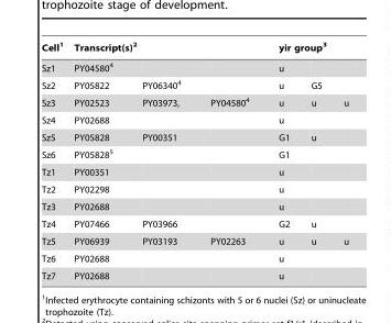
<table><thead><tr><td rowspan="2">Cell<sup>1</sup> Sz1</td><td colspan="3">Transcript(s)<sup>2</sup></td><td colspan="3">yir group<sup>3</sup></td></tr><tr><td>PY04580<sup>4</sup></td><td></td><td></td><td>u</td><td></td><td></td></tr></thead><tbody><tr><td>Sz2</td><td>PY05822</td><td>PY06340<sup>4</sup></td><td></td><td>u</td><td>G5</td><td></td></tr><tr><td>Sz3</td><td>PY02523</td><td>PY03973,</td><td>PY04580<sup>4</sup></td><td>u</td><td>u</td><td>u</td></tr><tr><td>Sz4</td><td>PY02688</td><td></td><td></td><td>u</td><td></td><td></td></tr><tr><td>Sz5</td><td>PY05828</td><td>PY00351</td><td></td><td>G1</td><td>u</td><td></td></tr><tr><td>Sz6</td><td>PY05828<sup>5</sup></td><td></td><td></td><td>G1</td><td></td><td></td></tr><tr><td>Tz1</td><td>PY00351</td><td></td><td></td><td>u</td><td></td><td></td></tr><tr><td>Tz2</td><td>PY02298</td><td></td><td></td><td>u</td><td></td><td></td></tr><tr><td>Tz3</td><td>PY02688</td><td></td><td></td><td>u</td><td></td><td></td></tr><tr><td>Tz4</td><td>PY07466</td><td>PY03966</td><td></td><td>G2</td><td>u</td><td></td></tr><tr><td>Tz5</td><td>PY06939</td><td>PY03193</td><td>PY02263</td><td>u</td><td>u</td><td>u</td></tr><tr><td>Tz6</td><td>PY02688</td><td></td><td></td><td>u</td><td></td><td></td></tr><tr><td>Tz7</td><td>PY02688</td><td></td><td></td><td>u</td><td></td><td></td></tr></tbody></table>